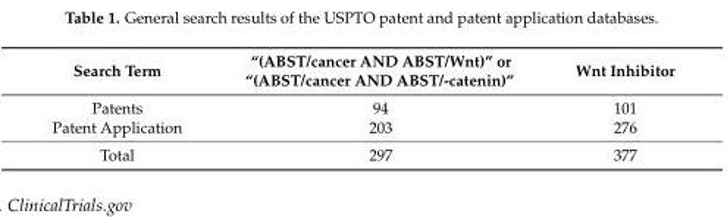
<table><thead><tr><td>Search Term</td><td>“(ABST/cancer AND ABST/Wnt)” or “(ABST/cancer AND ABST/-catenin)”</td><td>Wnt Inhibitor</td></tr></thead><tbody><tr><td>Patents</td><td>94</td><td>101</td></tr><tr><td>Patent Application</td><td>203</td><td>276</td></tr><tr><td>Total</td><td>297</td><td>377</td></tr></tbody></table>